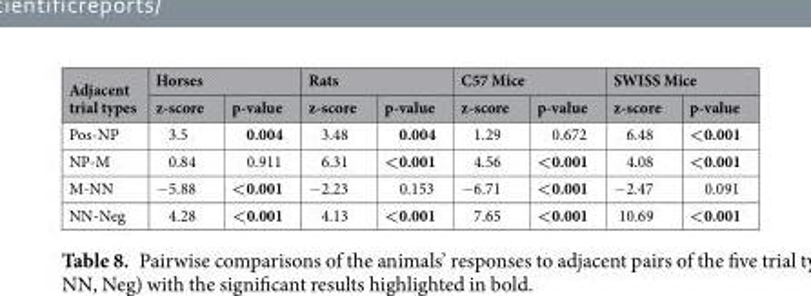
<table><thead><tr><td rowspan="2">Adjacent trial types</td><td colspan="2">Horses</td><td colspan="2">Rats</td><td colspan="2">C57 Mice</td><td colspan="2">SWISS Mice</td></tr><tr><td>z-score</td><td>p-value</td><td>z-score</td><td>p-value</td><td>z-score</td><td>p-value</td><td>z-score</td><td>p-value</td></tr></thead><tbody><tr><td>Pos-NP</td><td>3.5</td><td>0.004</td><td>3.48</td><td>0.004</td><td>1.29</td><td>0.672</td><td>6.48</td><td>&lt;0.001</td></tr><tr><td>NP-M</td><td>0.84</td><td>0.911</td><td>6.31</td><td>&lt;0.001</td><td>4.56</td><td>&lt;0.001</td><td>4.08</td><td>&lt;0.001</td></tr><tr><td>M-NN</td><td>−5.88</td><td>&lt;0.001</td><td>−2.23</td><td>0.153</td><td>−6.71</td><td>&lt;0.001</td><td>−2.47</td><td>0.091</td></tr><tr><td>NN-Neg</td><td>4.28</td><td>&lt;0.001</td><td>4.13</td><td>&lt;0.001</td><td>7.65</td><td>&lt;0.001</td><td>10.69</td><td>&lt;0.001</td></tr></tbody></table>